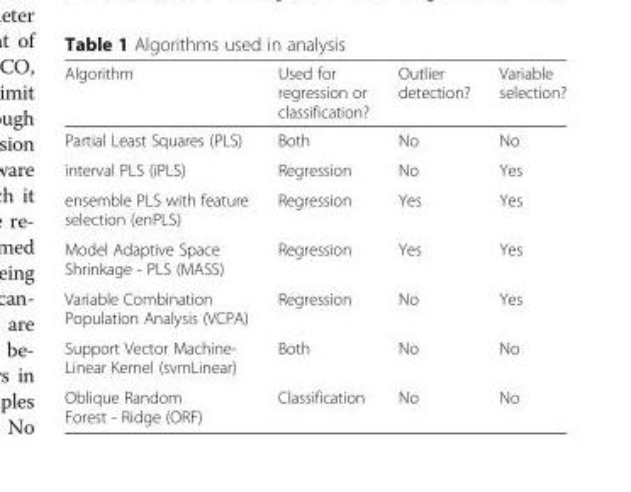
<table><thead><tr><td>Algorithm</td><td>Used for regression or classification?</td><td>Outlier detection?</td><td>Variable selection?</td></tr></thead><tbody><tr><td>Partial Least Squares (PLS)</td><td>Both</td><td>No</td><td>No</td></tr><tr><td>interval PLS (iPLS)</td><td>Regression</td><td>No</td><td>Yes</td></tr><tr><td>ensemble PLS with feature selection (enPLS)</td><td>Regression</td><td>Yes</td><td>Yes</td></tr><tr><td>Model Adaptive Space Shrinkage - PLS (MASS)</td><td>Regression</td><td>Yes</td><td>Yes</td></tr><tr><td>Variable Combination Population Analysis (VCPA)</td><td>Regression</td><td>No</td><td>Yes</td></tr><tr><td>Support Vector Machine- Linear Kernel (svmLinear)</td><td>Both</td><td>No</td><td>No</td></tr><tr><td>Oblique Random Forest - Ridge (ORF)</td><td>Classification</td><td>No</td><td>No</td></tr></tbody></table>